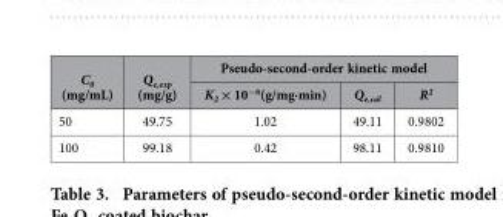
<table><thead><tr><td rowspan="2">C<sub>0</sub> (mg/mL)</td><td rowspan="2">Q<sub>e,exp</sub> (mg/g)</td><td colspan="3">Pseudo-second-order kinetic model</td></tr><tr><td>K<sub>2</sub> × 10<sup>−6</sup>(g/mg·min)</td><td>Q<sub>e,cal</sub></td><td>R<sup>2</sup></td></tr></thead><tbody><tr><td>50</td><td>49.75</td><td>1.02</td><td>49.11</td><td>0.9802</td></tr><tr><td>100</td><td>99.18</td><td>0.42</td><td>98.11</td><td>0.9810</td></tr></tbody></table>